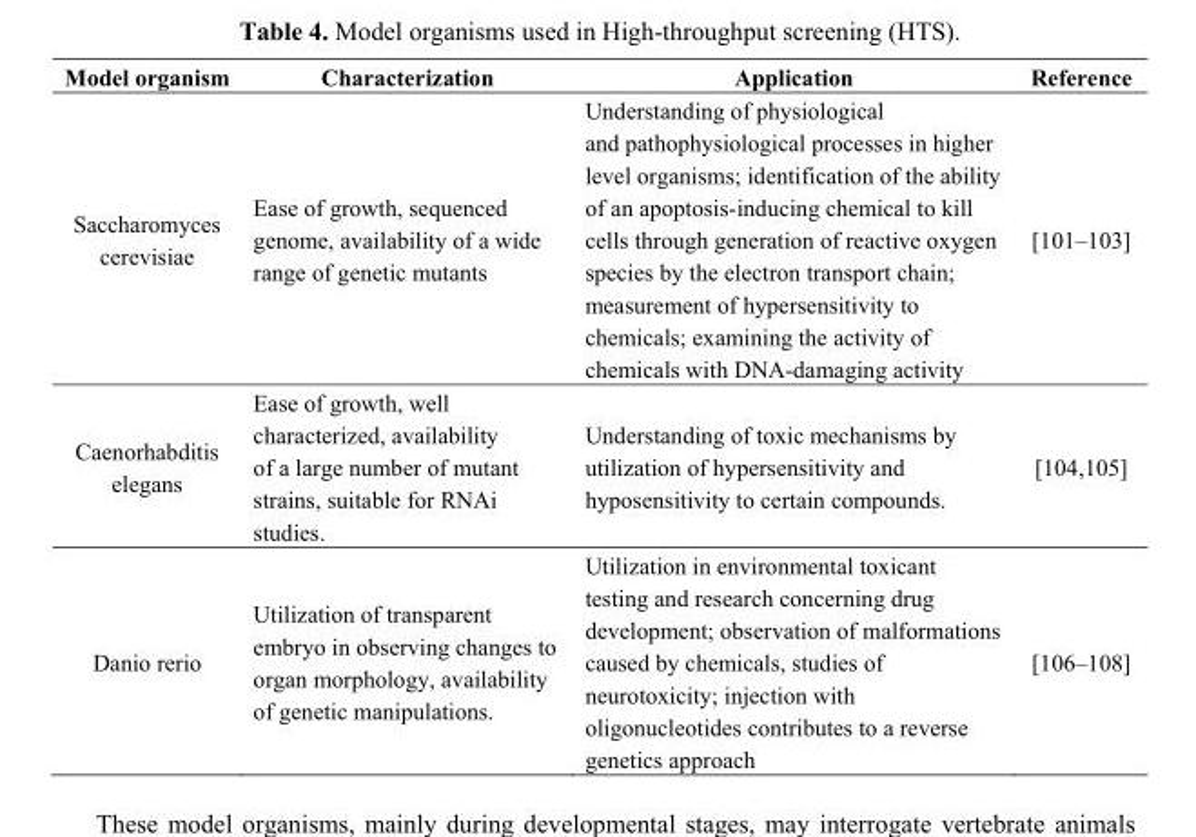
<table><thead><tr><td>Model organism</td><td>Characterization</td><td>Application</td><td>Reference</td></tr></thead><tbody><tr><td>Saccharomyces cerevisiae</td><td>Ease of growth, sequenced genome, availability of a wide range of genetic mutants</td><td>Understanding of physiological and pathophysiological processes in higher level organisms; identification of the ability of an apoptosis-inducing chemical to kill cells through generation of reactive oxygen species by the electron transport chain; measurement of hypersensitivity to chemicals; examining the activity of chemicals with DNA-damaging activity</td><td>[101–103]</td></tr><tr><td>Caenorhabditis elegans</td><td>Ease of growth, well characterized, availability of a large number of mutant strains, suitable for RNAi studies.</td><td>Understanding of toxic mechanisms by utilization of hypersensitivity and hyposensitivity to certain compounds.</td><td>[104,105]</td></tr><tr><td>Danio rerio</td><td>Utilization of transparent embryo in observing changes to organ morphology, availability of genetic manipulations.</td><td>Utilization in environmental toxicant testing and research concerning drug development; observation of malformations caused by chemicals, studies of neurotoxicity; injection with oligonucleotides contributes to a reverse genetics approach</td><td>[106–108]</td></tr></tbody></table>